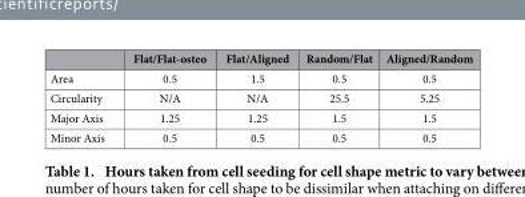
<table><thead><tr><td></td><td>Flat/Flat-osteo</td><td>Flat/Aligned</td><td>Random/Flat</td><td>Aligned/Random</td></tr></thead><tbody><tr><td>Area</td><td>0.5</td><td>1.5</td><td>0.5</td><td>0.5</td></tr><tr><td>Circularity</td><td>N/A</td><td>N/A</td><td>25.5</td><td>5.25</td></tr><tr><td>Major Axis</td><td>1.25</td><td>1.25</td><td>1.5</td><td>1.5</td></tr><tr><td>Minor Axis</td><td>0.5</td><td>0.5</td><td>0.5</td><td>0.5</td></tr></tbody></table>